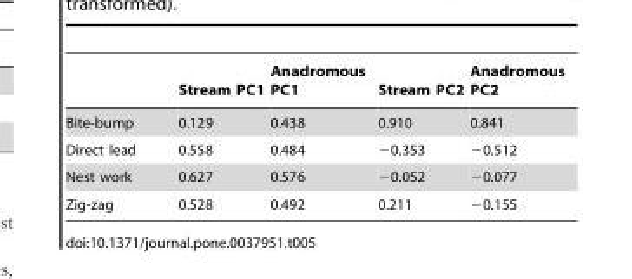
<table><thead><tr><td></td><td>Stream PC1</td><td>Anadromous PC1</td><td>Stream PC2</td><td>Anadromous PC2</td></tr></thead><tbody><tr><td>Bite-bump</td><td>0.129</td><td>0.438</td><td>0.910</td><td>0.841</td></tr><tr><td>Direct lead</td><td>0.558</td><td>0.484</td><td>−0.353</td><td>−0.512</td></tr><tr><td>Nest work</td><td>0.627</td><td>0.576</td><td>−0.052</td><td>−0.077</td></tr><tr><td>Zig-zag</td><td>0.528</td><td>0.492</td><td>0.211</td><td>−0.155</td></tr></tbody></table>